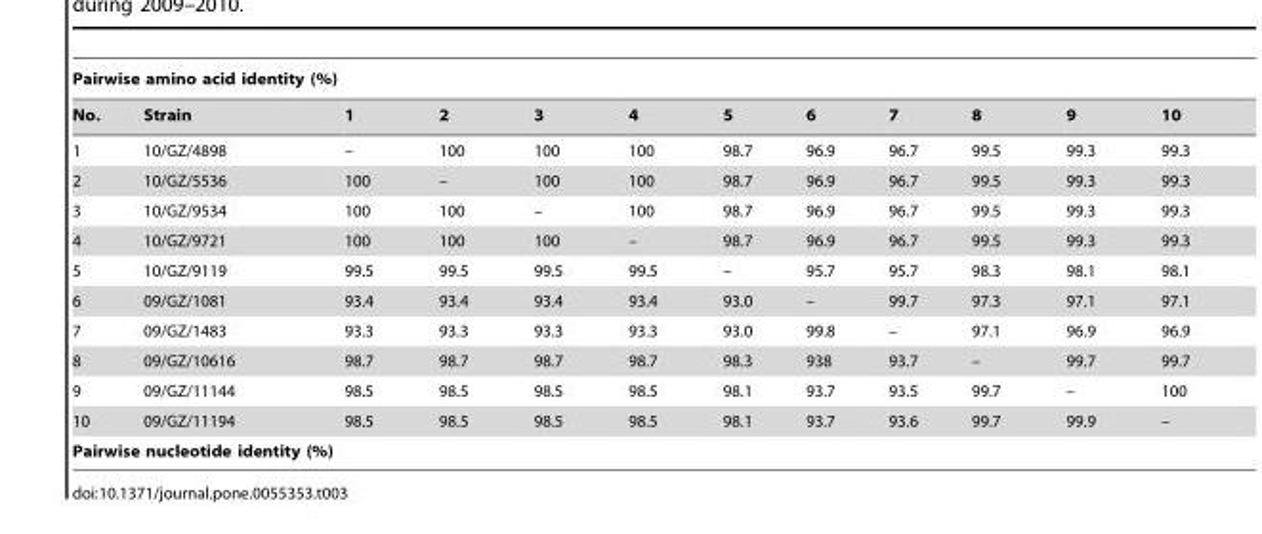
<table><thead><tr><td colspan="12">Pairwise amino acid identity (%)</td></tr><tr><td>No.</td><td>Strain</td><td>1</td><td>2</td><td>3</td><td>4</td><td>5</td><td>6</td><td>7</td><td>8</td><td>9</td><td>10</td></tr></thead><tbody><tr><td>1</td><td>10/GZ/4898</td><td>–</td><td>100</td><td>100</td><td>100</td><td>98.7</td><td>96.9</td><td>96.7</td><td>99.5</td><td>99.3</td><td>99.3</td></tr><tr><td>2</td><td>10/GZ/5536</td><td>100</td><td>–</td><td>100</td><td>100</td><td>98.7</td><td>96.9</td><td>96.7</td><td>99.5</td><td>99.3</td><td>99.3</td></tr><tr><td>3</td><td>10/GZ/9534</td><td>100</td><td>100</td><td>–</td><td>100</td><td>98.7</td><td>96.9</td><td>96.7</td><td>99.5</td><td>99.3</td><td>99.3</td></tr><tr><td>4</td><td>10/GZ/9721</td><td>100</td><td>100</td><td>100</td><td>–</td><td>98.7</td><td>96.9</td><td>96.7</td><td>99.5</td><td>99.3</td><td>99.3</td></tr><tr><td>5</td><td>10/GZ/9119</td><td>99.5</td><td>99.5</td><td>99.5</td><td>99.5</td><td>–</td><td>95.7</td><td>95.7</td><td>98.3</td><td>98.1</td><td>98.1</td></tr><tr><td>6</td><td>09/GZ/1081</td><td>93.4</td><td>93.4</td><td>93.4</td><td>93.4</td><td>93.0</td><td>–</td><td>99.7</td><td>97.3</td><td>97.1</td><td>97.1</td></tr><tr><td>7</td><td>09/GZ/1483</td><td>93.3</td><td>93.3</td><td>93.3</td><td>93.3</td><td>93.0</td><td>99.8</td><td>–</td><td>97.1</td><td>96.9</td><td>96.9</td></tr><tr><td>8</td><td>09/GZ/10616</td><td>98.7</td><td>98.7</td><td>98.7</td><td>98.7</td><td>98.3</td><td>938</td><td>93.7</td><td>–</td><td>99.7</td><td>99.7</td></tr><tr><td>9</td><td>09/GZ/11144</td><td>98.5</td><td>98.5</td><td>98.5</td><td>98.5</td><td>98.1</td><td>93.7</td><td>93.5</td><td>99.7</td><td>–</td><td>100</td></tr><tr><td>10</td><td>09/GZ/11194</td><td>98.5</td><td>98.5</td><td>98.5</td><td>98.5</td><td>98.1</td><td>93.7</td><td>93.6</td><td>99.7</td><td>99.9</td><td>–</td></tr><tr><td colspan="12">Pairwise nucleotide identity (%)</td></tr></tbody></table>